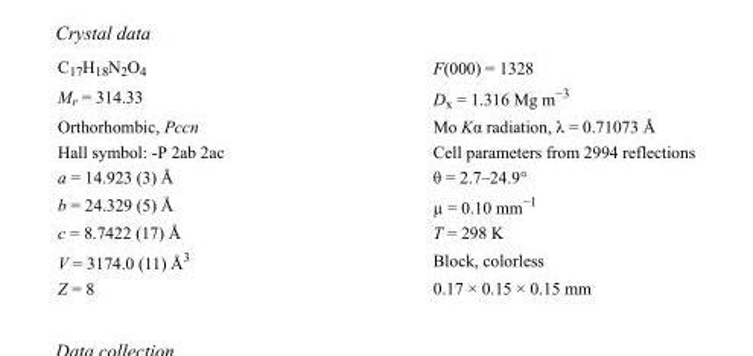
<table><tbody><tr><td>C<sub>17</sub>H<sub>18</sub>N<sub>2</sub>O<sub>4</sub></td><td>F(000) = 1328</td></tr><tr><td>M<sub>r</sub> = 314.33</td><td>D<sub>x</sub> = 1.316 Mg m<sup>−3</sup></td></tr><tr><td>Orthorhombic, Pccn</td><td>Mo Kα radiation, λ = 0.71073 Å</td></tr><tr><td>Hall symbol: -P 2ab 2ac</td><td>Cell parameters from 2994 reflections</td></tr><tr><td>a = 14.923 (3) Å</td><td>θ = 2.7–24.9°</td></tr><tr><td>b = 24.329 (5) Å</td><td>µ = 0.10 mm<sup>−1</sup></td></tr><tr><td>c = 8.7422 (17) Å</td><td>T = 298 K</td></tr><tr><td>V = 3174.0 (11) Å<sup>3</sup></td><td>Block, colorless</td></tr><tr><td>Z = 8</td><td>0.17 × 0.15 × 0.15 mm</td></tr></tbody></table>